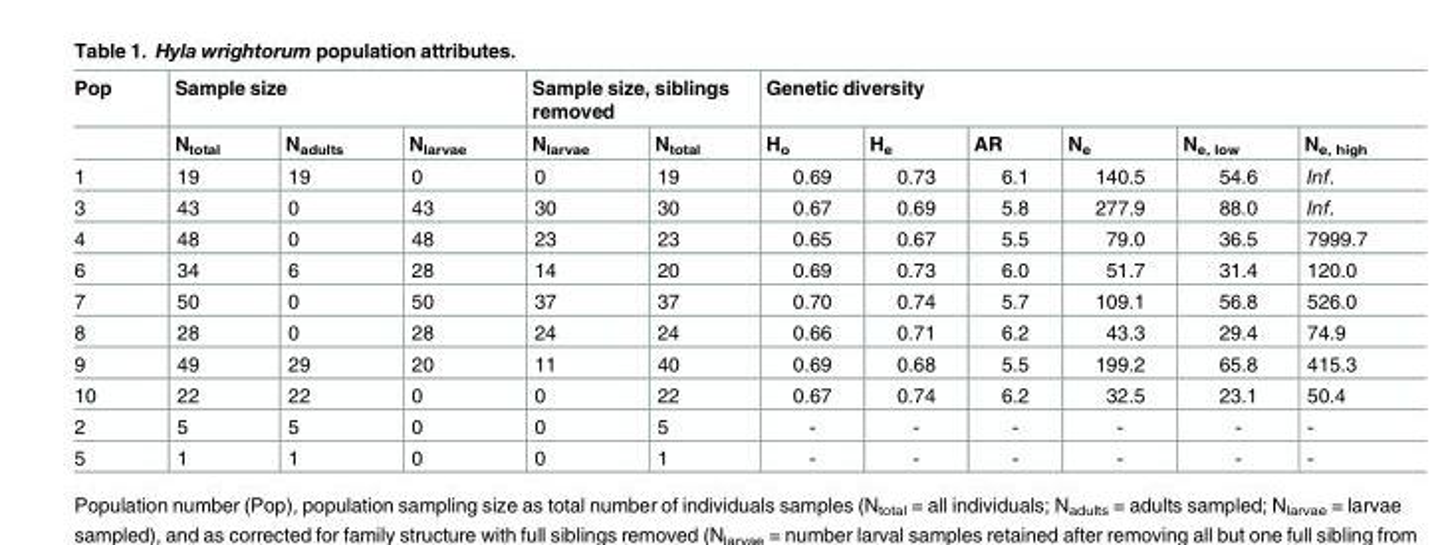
<table><thead><tr><td rowspan="2">Pop</td><td colspan="3">Sample size</td><td colspan="2">Sample size, siblings removed</td><td colspan="6">Genetic diversity</td></tr><tr><td>N<sub>total</sub></td><td>N<sub>adults</sub></td><td>N<sub>larvae</sub></td><td>N<sub>larvae</sub></td><td>N<sub>total</sub></td><td>H<sub>o</sub></td><td>H<sub>e</sub></td><td>AR</td><td>N<sub>e</sub></td><td>N<sub>e, low</sub></td><td>N<sub>e, high</sub></td></tr></thead><tbody><tr><td>1</td><td>19</td><td>19</td><td>0</td><td>0</td><td>19</td><td>0.69</td><td>0.73</td><td>6.1</td><td>140.5</td><td>54.6</td><td>Inf.</td></tr><tr><td>3</td><td>43</td><td>0</td><td>43</td><td>30</td><td>30</td><td>0.67</td><td>0.69</td><td>5.8</td><td>277.9</td><td>88.0</td><td>Inf.</td></tr><tr><td>4</td><td>48</td><td>0</td><td>48</td><td>23</td><td>23</td><td>0.65</td><td>0.67</td><td>5.5</td><td>79.0</td><td>36.5</td><td>7999.7</td></tr><tr><td>6</td><td>34</td><td>6</td><td>28</td><td>14</td><td>20</td><td>0.69</td><td>0.73</td><td>6.0</td><td>51.7</td><td>31.4</td><td>120.0</td></tr><tr><td>7</td><td>50</td><td>0</td><td>50</td><td>37</td><td>37</td><td>0.70</td><td>0.74</td><td>5.7</td><td>109.1</td><td>56.8</td><td>526.0</td></tr><tr><td>8</td><td>28</td><td>0</td><td>28</td><td>24</td><td>24</td><td>0.66</td><td>0.71</td><td>6.2</td><td>43.3</td><td>29.4</td><td>74.9</td></tr><tr><td>9</td><td>49</td><td>29</td><td>20</td><td>11</td><td>40</td><td>0.69</td><td>0.68</td><td>5.5</td><td>199.2</td><td>65.8</td><td>415.3</td></tr><tr><td>10</td><td>22</td><td>22</td><td>0</td><td>0</td><td>22</td><td>0.67</td><td>0.74</td><td>6.2</td><td>32.5</td><td>23.1</td><td>50.4</td></tr><tr><td>2</td><td>5</td><td>5</td><td>0</td><td>0</td><td>5</td><td>-</td><td>-</td><td>-</td><td>-</td><td>-</td><td>-</td></tr><tr><td>5</td><td>1</td><td>1</td><td>0</td><td>0</td><td>1</td><td>-</td><td>-</td><td>-</td><td>-</td><td>-</td><td>-</td></tr></tbody></table>